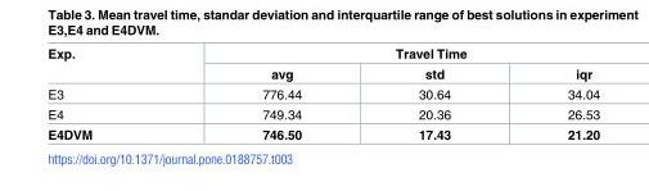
<table><thead><tr><td rowspan="2">Exp.</td><td colspan="3">Travel Time</td></tr><tr><td>avg</td><td>std</td><td>iqr</td></tr></thead><tbody><tr><td>E3</td><td>776.44</td><td>30.64</td><td>34.04</td></tr><tr><td>E4</td><td>749.34</td><td>20.36</td><td>26.53</td></tr><tr><td>E4DVM</td><td>746.50</td><td>17.43</td><td>21.20</td></tr></tbody></table>